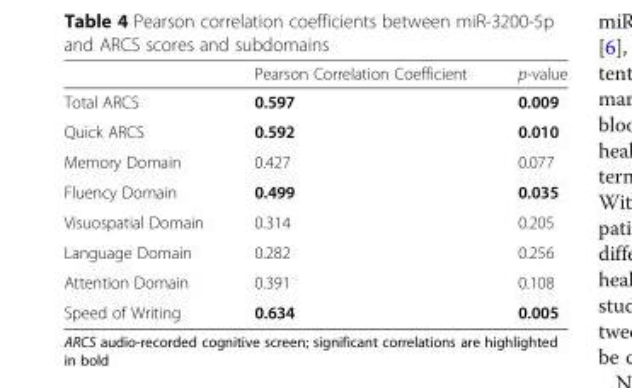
<table><thead><tr><td></td><td>Pearson Correlation Coefficient</td><td>p-value</td></tr></thead><tbody><tr><td>Total ARCS</td><td>0.597</td><td>0.009</td></tr><tr><td>Quick ARCS</td><td>0.592</td><td>0.010</td></tr><tr><td>Memory Domain</td><td>0.427</td><td>0.077</td></tr><tr><td>Fluency Domain</td><td>0.499</td><td>0.035</td></tr><tr><td>Visuospatial Domain</td><td>0.314</td><td>0.205</td></tr><tr><td>Language Domain</td><td>0.282</td><td>0.256</td></tr><tr><td>Attention Domain</td><td>0.391</td><td>0.108</td></tr><tr><td>Speed of Writing</td><td>0.634</td><td>0.005</td></tr></tbody></table>